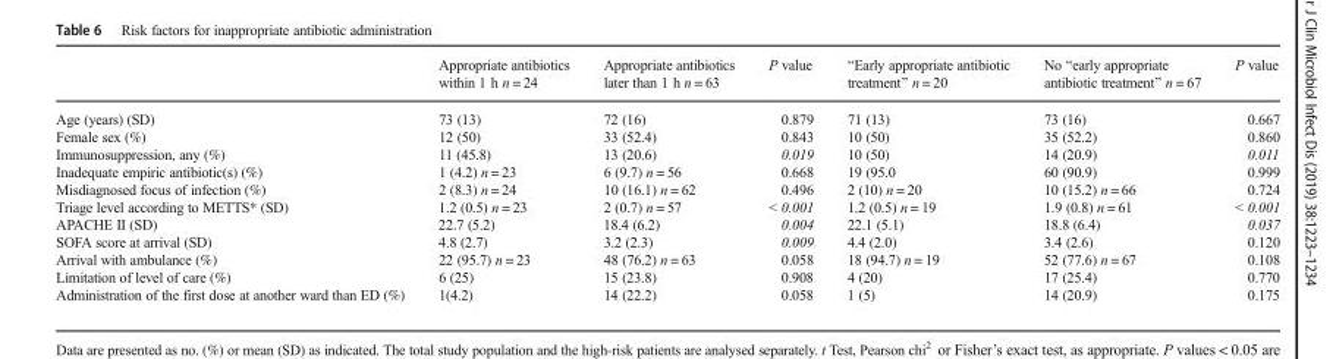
<table><thead><tr><td></td><td>Appropriate antibiotics within 1 h n = 24</td><td>Appropriate antibiotics later than 1 h n = 63</td><td>P value</td><td>“Early appropriate antibiotic treatment” n = 20</td><td>No “early appropriate antibiotic treatment” n = 67</td><td>P value</td></tr></thead><tbody><tr><td>Age (years) (SD)</td><td>73 (13)</td><td>72 (16)</td><td>0.879</td><td>71 (13)</td><td>73 (16)</td><td>0.667</td></tr><tr><td>Female sex (%)</td><td>12 (50)</td><td>33 (52.4)</td><td>0.843</td><td>10 (50)</td><td>35 (52.2)</td><td>0.860</td></tr><tr><td>Immunosuppression, any (%)</td><td>11 (45.8)</td><td>13 (20.6)</td><td>0.019</td><td>10 (50)</td><td>14 (20.9)</td><td>0.011</td></tr><tr><td>Inadequate empiric antibiotic(s) (%)</td><td>1 (4.2) n = 23</td><td>6 (9.7) n = 56</td><td>0.668</td><td>19 (95.0</td><td>60 (90.9)</td><td>0.999</td></tr><tr><td>Misdiagnosed focus of infection (%)</td><td>2 (8.3) n = 24</td><td>10 (16.1) n = 62</td><td>0.496</td><td>2 (10) n = 20</td><td>10 (15.2) n = 66</td><td>0.724</td></tr><tr><td>Triage level according to METTS* (SD)</td><td>1.2 (0.5) n = 23</td><td>2 (0.7) n = 57</td><td>&lt; 0.001</td><td>1.2 (0.5) n = 19</td><td>1.9 (0.8) n = 61</td><td>&lt; 0.001</td></tr><tr><td>APACHE II (SD)</td><td>22.7 (5.2)</td><td>18.4 (6.2)</td><td>0.004</td><td>22.1 (5.1)</td><td>18.8 (6.4)</td><td>0.037</td></tr><tr><td>SOFA score at arrival (SD)</td><td>4.8 (2.7)</td><td>3.2 (2.3)</td><td>0.009</td><td>4.4 (2.0)</td><td>3.4 (2.6)</td><td>0.120</td></tr><tr><td>Arrival with ambulance (%)</td><td>22 (95.7) n = 23</td><td>48 (76.2) n = 63</td><td>0.058</td><td>18 (94.7) n = 19</td><td>52 (77.6) n = 67</td><td>0.108</td></tr><tr><td>Limitation of level of care (%)</td><td>6 (25)</td><td>15 (23.8)</td><td>0.908</td><td>4 (20)</td><td>17 (25.4)</td><td>0.770</td></tr><tr><td>Administration of the first dose at another ward than ED (%)</td><td>1(4.2)</td><td>14 (22.2)</td><td>0.058</td><td>1 (5)</td><td>14 (20.9)</td><td>0.175</td></tr></tbody></table>